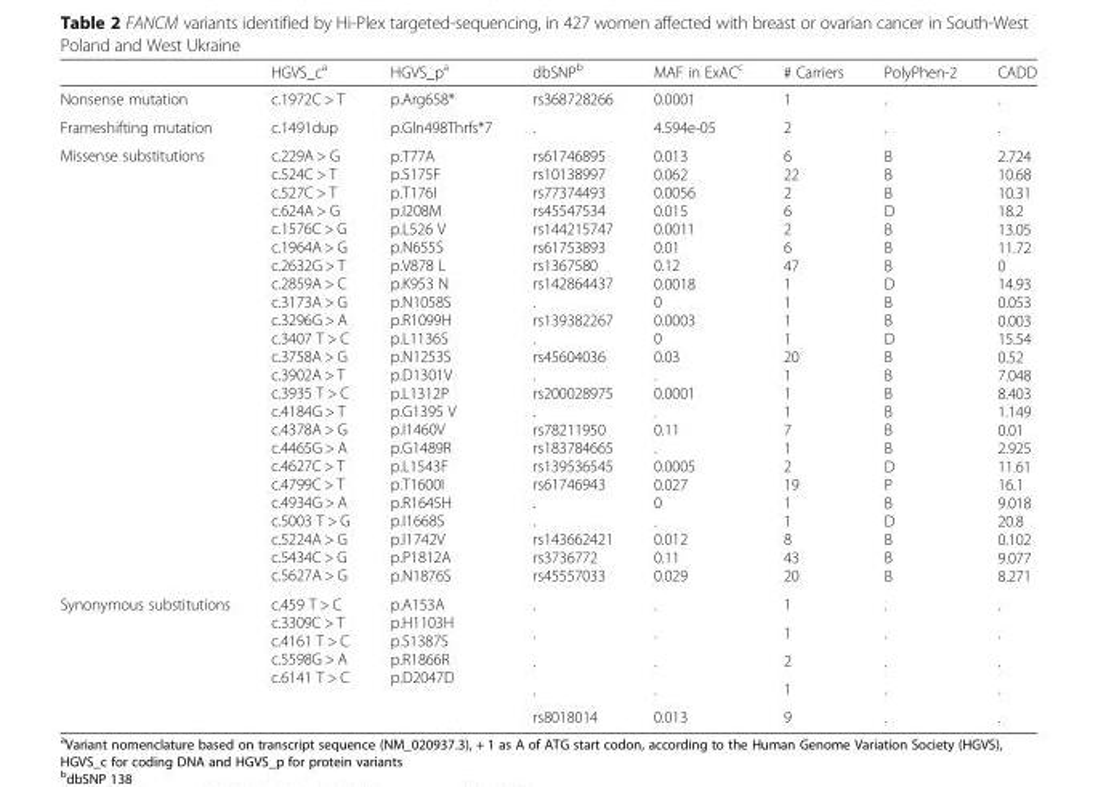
<table><thead><tr><td></td><td>HGVS_c<sup>a</sup></td><td>HGVS_p<sup>a</sup></td><td>dbSNP<sup>b</sup></td><td>MAF in ExAC<sup>c</sup></td><td># Carriers</td><td>PolyPhen-2</td><td>CADD</td></tr></thead><tbody><tr><td>Nonsense mutation</td><td>c.1972C &gt; T</td><td>p.Arg658*</td><td>rs368728266</td><td>0.0001</td><td>1</td><td>.</td><td>.</td></tr><tr><td>Frameshifting mutation</td><td>c.1491dup</td><td>p.Gln498Thrfs*7</td><td>.</td><td>4.594e-05</td><td>2</td><td>.</td><td>.</td></tr><tr><td>Missense substitutions</td><td>c.229A &gt; G c.524C &gt; T c.527C &gt; T c.624A &gt; G c.1576C &gt; G c.1964A &gt; G c.2632G &gt; T c.2859A &gt; C c.3173A &gt; G c.3296G &gt; A c.3407 T &gt; C c.3758A &gt; G c.3902A &gt; T c.3935 T &gt; C c.4184G &gt; T c.4378A &gt; G c.4465G &gt; A c.4627C &gt; T c.4799C &gt; T c.4934G &gt; A c.5003 T &gt; G c.5224A &gt; G c.5434C &gt; G c.5627A &gt; G</td><td>p.T77A p.S175F p.T176I p.I208M p.L526 V p.N655S p.V878 L p.K953 N p.N1058S p.R1099H p.L1136S p.N1253S p.D1301V p.L1312P p.G1395 V p.I1460V p.G1489R p.L1543F p.T1600I p.R1645H p.I1668S p.I1742V p.P1812A p.N1876S</td><td>rs61746895 rs10138997 rs77374493 rs45547534 rs144215747 rs61753893 rs1367580 rs142864437 . rs139382267 . rs45604036 . rs200028975 . rs78211950 rs183784665 rs139536545 rs61746943 . . rs143662421 rs3736772 rs45557033</td><td>0.013 0.062 0.0056 0.015 0.0011 0.01 0.12 0.0018 0 0.0003 0 0.03 . 0.0001 . 0.11 . 0.0005 0.027 0 . 0.012 0.11 0.029</td><td>6 22 2 6 2 6 47 1 1 1 1 20 1 1 1 7 1 2 19 1 1 8 43 20</td><td>B B B D B B B D B B D B B B B B B D P B D B B B</td><td>2.724 10.68 10.31 18.2 13.05 11.72 0 14.93 0.053 0.003 15.54 0.52 7.048 8.403 1.149 0.01 2.925 11.61 16.1 9.018 20.8 0.102 9.077 8.271</td></tr><tr><td rowspan="5">Synonymous substitutions</td><td rowspan="5">c.459 T &gt; C c.3309C &gt; T c.4161 T &gt; C c.5598G &gt; A c.6141 T &gt; C</td><td rowspan="5">p.A153A p.H1103H p.S1387S p.R1866R p.D2047D</td><td>.</td><td>.</td><td>1</td><td>.</td><td>.</td></tr><tr><td>.</td><td>.</td><td>1</td><td>.</td><td>.</td></tr><tr><td>.</td><td>.</td><td>2</td><td>.</td><td>.</td></tr><tr><td>.</td><td>.</td><td>1</td><td>.</td><td>.</td></tr><tr><td>rs8018014</td><td>0.013</td><td>9</td><td>.</td><td>.</td></tr></tbody></table>